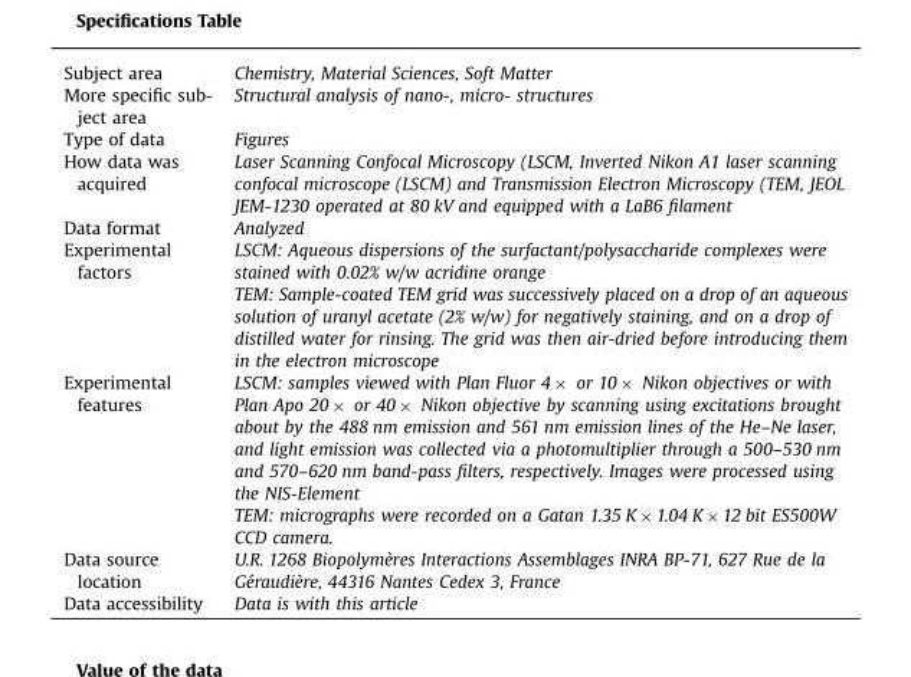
<table><tbody><tr><td>Subject area</td><td>Chemistry, Material Sciences, Soft Matter</td></tr><tr><td>More specific sub- ject area</td><td>Structural analysis of nano-, micro- structures</td></tr><tr><td>Type of data</td><td>Figures</td></tr><tr><td>How data was acquired</td><td>Laser Scanning Confocal Microscopy (LSCM, Inverted Nikon A1 laser scanning confocal microscope (LSCM) and Transmission Electron Microscopy (TEM, JEOL JEM-1230 operated at 80 kV and equipped with a LaB6 filament</td></tr><tr><td>Data format</td><td>Analyzed</td></tr><tr><td rowspan="2">Experimental factors</td><td>LSCM: Aqueous dispersions of the surfactant/polysaccharide complexes were stained with 0.02% w/w acridine orange</td></tr><tr><td>TEM: Sample-coated TEM grid was successively placed on a drop of an aqueous solution of uranyl acetate (2% w/w) for negatively staining, and on a drop of distilled water for rinsing. The grid was then air-dried before introducing them in the electron microscope</td></tr><tr><td rowspan="2">Experimental features</td><td>LSCM: samples viewed with Plan Fluor 4 × or 10 × Nikon objectives or with Plan Apo 20 × or 40 × Nikon objective by scanning using excitations brought about by the 488 nm emission and 561 nm emission lines of the He–Ne laser, and light emission was collected via a photomultiplier through a 500–530 nm and 570–620 nm band-pass filters, respectively. Images were processed using the NIS-Element</td></tr><tr><td>TEM: micrographs were recorded on a Gatan 1.35 K × 1.04 K × 12 bit ES500W CCD camera.</td></tr><tr><td>Data source location</td><td>U.R. 1268 Biopolymères Interactions Assemblages INRA BP-71, 627 Rue de la Géraudière, 44316 Nantes Cedex 3, France</td></tr><tr><td>Data accessibility</td><td>Data is with this article</td></tr></tbody></table>